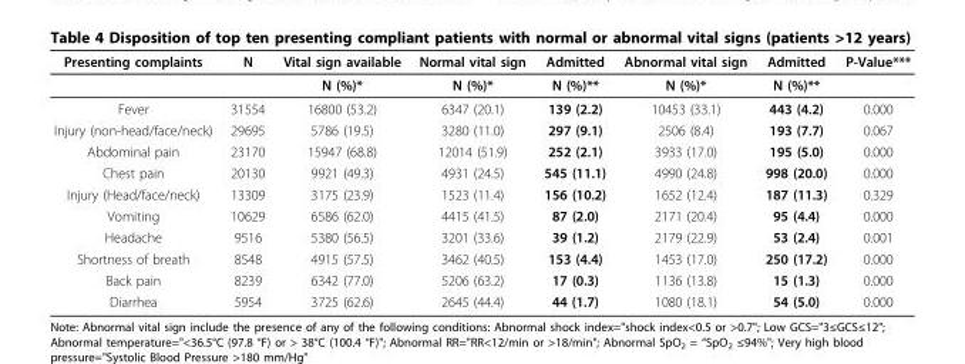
<table><thead><tr><td>Presenting complaints</td><td>N</td><td>Vital sign available</td><td>Normal vital sign</td><td>Admitted</td><td>Abnormal vital sign</td><td>Admitted</td><td>P-Value***</td></tr></thead><tbody><tr><td></td><td></td><td>N (%)*</td><td>N (%)*</td><td>N (%)**</td><td>N (%)*</td><td>N (%)**</td><td></td></tr><tr><td>Fever</td><td>31554</td><td>16800 (53.2)</td><td>6347 (20.1)</td><td>139 (2.2)</td><td>10453 (33.1)</td><td>443 (4.2)</td><td>0.000</td></tr><tr><td>Injury (non-head/face/neck)</td><td>29695</td><td>5786 (19.5)</td><td>3280 (11.0)</td><td>297 (9.1)</td><td>2506 (8.4)</td><td>193 (7.7)</td><td>0.067</td></tr><tr><td>Abdominal pain</td><td>23170</td><td>15947 (68.8)</td><td>12014 (51.9)</td><td>252 (2.1)</td><td>3933 (17.0)</td><td>195 (5.0)</td><td>0.000</td></tr><tr><td>Chest pain</td><td>20130</td><td>9921 (49.3)</td><td>4931 (24.5)</td><td>545 (11.1)</td><td>4990 (24.8)</td><td>998 (20.0)</td><td>0.000</td></tr><tr><td>Injury (Head/face/neck)</td><td>13309</td><td>3175 (23.9)</td><td>1523 (11.4)</td><td>156 (10.2)</td><td>1652 (12.4)</td><td>187 (11.3)</td><td>0.329</td></tr><tr><td>Vomiting</td><td>10629</td><td>6586 (62.0)</td><td>4415 (41.5)</td><td>87 (2.0)</td><td>2171 (20.4)</td><td>95 (4.4)</td><td>0.000</td></tr><tr><td>Headache</td><td>9516</td><td>5380 (56.5)</td><td>3201 (33.6)</td><td>39 (1.2)</td><td>2179 (22.9)</td><td>53 (2.4)</td><td>0.001</td></tr><tr><td>Shortness of breath</td><td>8548</td><td>4915 (57.5)</td><td>3462 (40.5)</td><td>153 (4.4)</td><td>1453 (17.0)</td><td>250 (17.2)</td><td>0.000</td></tr><tr><td>Back pain</td><td>8239</td><td>6342 (77.0)</td><td>5206 (63.2)</td><td>17 (0.3)</td><td>1136 (13.8)</td><td>15 (1.3)</td><td>0.000</td></tr><tr><td>Diarrhea</td><td>5954</td><td>3725 (62.6)</td><td>2645 (44.4)</td><td>44 (1.7)</td><td>1080 (18.1)</td><td>54 (5.0)</td><td>0.000</td></tr></tbody></table>